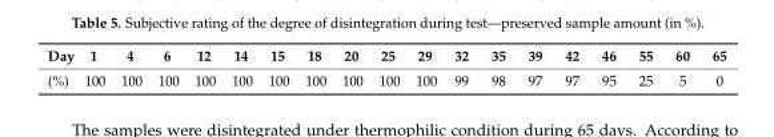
<table><thead><tr><td>Day</td><td>1</td><td>4</td><td>6</td><td>12</td><td>14</td><td>15</td><td>18</td><td>20</td><td>25</td><td>29</td><td>32</td><td>35</td><td>39</td><td>42</td><td>46</td><td>55</td><td>60</td><td>65</td></tr></thead><tbody><tr><td>(%)</td><td>100</td><td>100</td><td>100</td><td>100</td><td>100</td><td>100</td><td>100</td><td>100</td><td>100</td><td>100</td><td>99</td><td>98</td><td>97</td><td>97</td><td>95</td><td>25</td><td>5</td><td>0</td></tr></tbody></table>